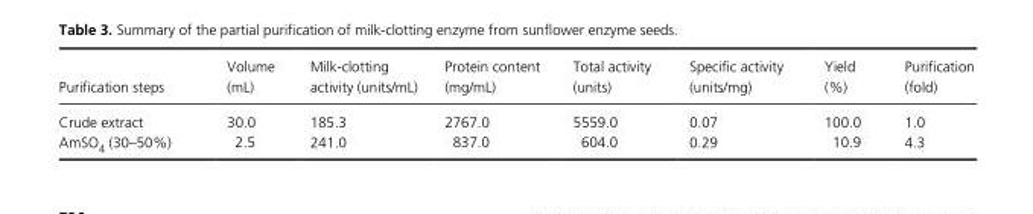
<table><thead><tr><td>Purification steps</td><td>Volume (mL)</td><td>Milk- clotting activity (units/mL)</td><td>Protein content (mg/mL)</td><td>Total activity (units)</td><td>Specific activity (units/mg)</td><td>Yield (%)</td><td>Purification (fold)</td></tr></thead><tbody><tr><td>Crude extract</td><td>30.0</td><td>185.3</td><td>2767.0</td><td>5559.0</td><td>0.07</td><td>100.0</td><td>1.0</td></tr><tr><td>AmSO<sub>4</sub> (30–50%)</td><td>2.5</td><td>241.0</td><td>837.0</td><td>604.0</td><td>0.29</td><td>10.9</td><td>4.3</td></tr></tbody></table>